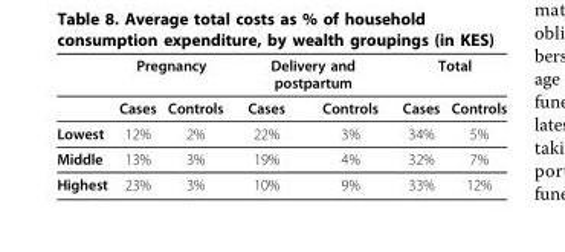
<table><thead><tr><td rowspan="2"></td><td colspan="2">Pregnancy</td><td colspan="2">Delivery and postpartum</td><td colspan="2">Total</td></tr><tr><td>Cases</td><td>Controls</td><td>Cases</td><td>Controls</td><td>Cases</td><td>Controls</td></tr></thead><tbody><tr><td>Lowest</td><td>12%</td><td>2%</td><td>22%</td><td>3%</td><td>34%</td><td>5%</td></tr><tr><td>Middle</td><td>13%</td><td>3%</td><td>19%</td><td>4%</td><td>32%</td><td>7%</td></tr><tr><td>Highest</td><td>23%</td><td>3%</td><td>10%</td><td>9%</td><td>33%</td><td>12%</td></tr></tbody></table>